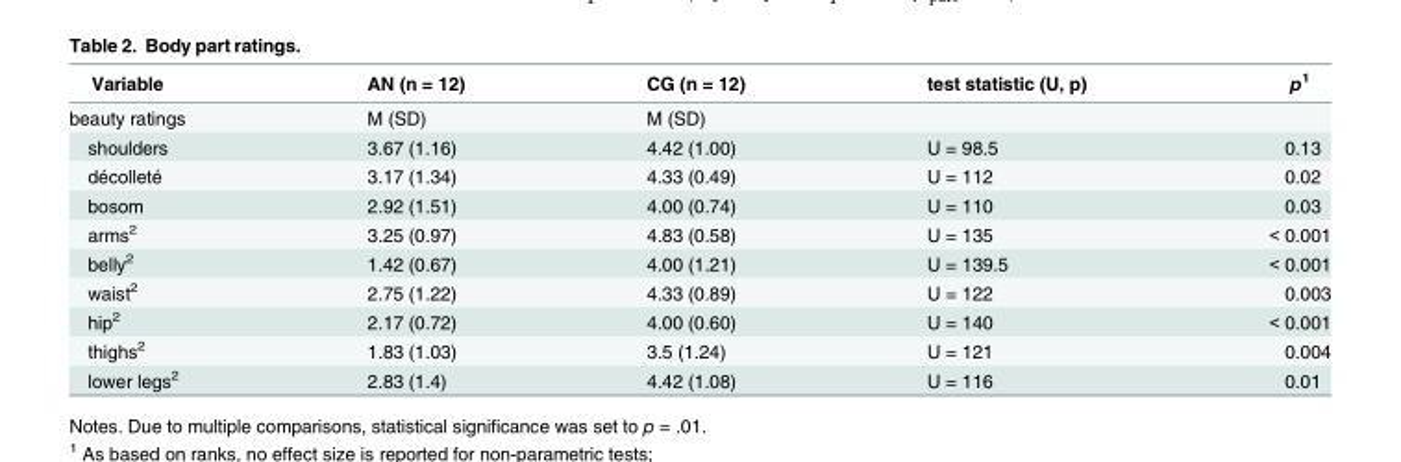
<table><thead><tr><td>Variable</td><td>AN (n = 12)</td><td>CG (n = 12)</td><td>test statistic (U, p)</td><td>p<sup>1</sup></td></tr></thead><tbody><tr><td>beauty ratings</td><td>M (SD)</td><td>M (SD)</td><td></td><td></td></tr><tr><td>shoulders</td><td>3.67 (1.16)</td><td>4.42 (1.00)</td><td>U = 98.5</td><td>0.13</td></tr><tr><td>décolleté</td><td>3.17 (1.34)</td><td>4.33 (0.49)</td><td>U = 112</td><td>0.02</td></tr><tr><td>bosom</td><td>2.92 (1.51)</td><td>4.00 (0.74)</td><td>U = 110</td><td>0.03</td></tr><tr><td>arms<sup>2</sup></td><td>3.25 (0.97)</td><td>4.83 (0.58)</td><td>U = 135</td><td>&lt; 0.001</td></tr><tr><td>belly<sup>2</sup></td><td>1.42 (0.67)</td><td>4.00 (1.21)</td><td>U = 139.5</td><td>&lt; 0.001</td></tr><tr><td>waist<sup>2</sup></td><td>2.75 (1.22)</td><td>4.33 (0.89)</td><td>U = 122</td><td>0.003</td></tr><tr><td>hip<sup>2</sup></td><td>2.17 (0.72)</td><td>4.00 (0.60)</td><td>U = 140</td><td>&lt; 0.001</td></tr><tr><td>thighs<sup>2</sup></td><td>1.83 (1.03)</td><td>3.5 (1.24)</td><td>U = 121</td><td>0.004</td></tr><tr><td>lower legs<sup>2</sup></td><td>2.83 (1.4)</td><td>4.42 (1.08)</td><td>U = 116</td><td>0.01</td></tr></tbody></table>